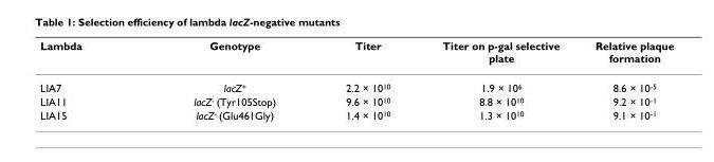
<table><thead><tr><td>Lambda</td><td>Genotype</td><td>Titer</td><td>Titer on p-gal selective plate</td><td>Relative plaque formation</td></tr></thead><tbody><tr><td>LIA7</td><td>lacZ<sup>+</sup></td><td>2.2 × 10<sup>10</sup></td><td>1.9 × 10<sup>6</sup></td><td>8.6 × 10<sup>-5</sup></td></tr><tr><td>LIA11</td><td>lacZ<sup>-</sup> (Tyr105Stop)</td><td>9.6 × 10<sup>10</sup></td><td>8.8 × 10<sup>10</sup></td><td>9.2 × 10<sup>-1</sup></td></tr><tr><td>LIA15</td><td>lacZ<sup>-</sup> (Glu461Gly)</td><td>1.4 × 10<sup>10</sup></td><td>1.3 × 10<sup>10</sup></td><td>9.1 × 10<sup>-1</sup></td></tr></tbody></table>